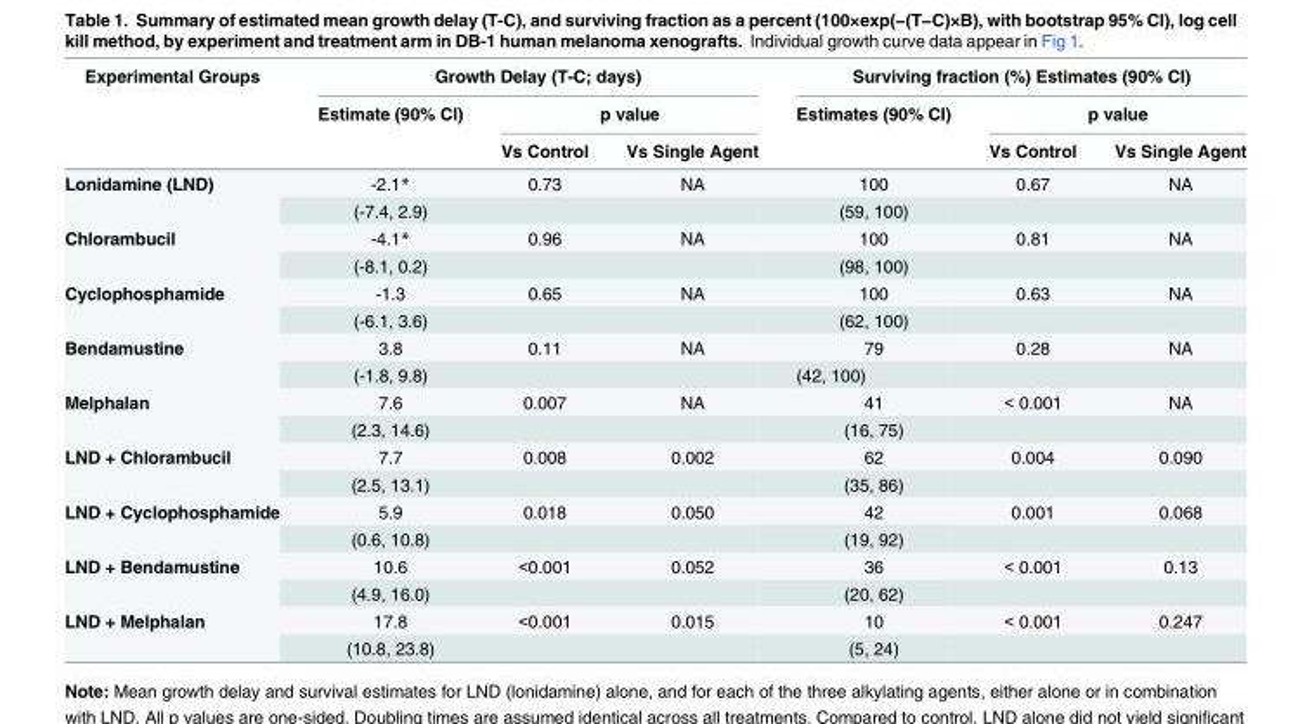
<table><thead><tr><td rowspan="3">Experimental Groups</td><td colspan="3">Growth Delay (T-C; days)</td><td colspan="3">Surviving fraction (%) Estimates (90% CI)</td></tr><tr><td rowspan="2">Estimate (90% CI)</td><td colspan="2">p value</td><td rowspan="2">Estimates (90% CI)</td><td colspan="2">p value</td></tr><tr><td>Vs Control</td><td>Vs Single Agent</td><td>Vs Control</td><td>Vs Single Agent</td></tr></thead><tbody><tr><td rowspan="2">Lonidamine (LND)</td><td>-2.1*</td><td>0.73</td><td>NA</td><td>100</td><td>0.67</td><td>NA</td></tr><tr><td>(-7.4, 2.9)</td><td></td><td></td><td>(59, 100)</td><td></td><td></td></tr><tr><td rowspan="2">Chlorambucil</td><td>-4.1*</td><td>0.96</td><td>NA</td><td>100</td><td>0.81</td><td>NA</td></tr><tr><td>(-8.1, 0.2)</td><td></td><td></td><td>(98, 100)</td><td></td><td></td></tr><tr><td rowspan="2">Cyclophosphamide</td><td>-1.3</td><td>0.65</td><td>NA</td><td>100</td><td>0.63</td><td>NA</td></tr><tr><td>(-6.1, 3.6)</td><td></td><td></td><td>(62, 100)</td><td></td><td></td></tr><tr><td rowspan="2">Bendamustine</td><td>3.8</td><td>0.11</td><td>NA</td><td>79</td><td>0.28</td><td>NA</td></tr><tr><td>(-1.8, 9.8)</td><td></td><td></td><td>(42, 100)</td><td></td><td></td></tr><tr><td rowspan="2">Melphalan</td><td>7.6</td><td>0.007</td><td>NA</td><td>41</td><td>&lt; 0.001</td><td>NA</td></tr><tr><td>(2.3, 14.6)</td><td></td><td></td><td>(16, 75)</td><td></td><td></td></tr><tr><td rowspan="2">LND + Chlorambucil</td><td>7.7</td><td>0.008</td><td>0.002</td><td>62</td><td>0.004</td><td>0.090</td></tr><tr><td>(2.5, 13.1)</td><td></td><td></td><td>(35, 86)</td><td></td><td></td></tr><tr><td rowspan="2">LND + Cyclophosphamide</td><td>5.9</td><td>0.018</td><td>0.050</td><td>42</td><td>0.001</td><td>0.068</td></tr><tr><td>(0.6, 10.8)</td><td></td><td></td><td>(19, 92)</td><td></td><td></td></tr><tr><td rowspan="2">LND + Bendamustine</td><td>10.6</td><td>&lt;0.001</td><td>0.052</td><td>36</td><td>&lt; 0.001</td><td>0.13</td></tr><tr><td>(4.9, 16.0)</td><td></td><td></td><td>(20, 62)</td><td></td><td></td></tr><tr><td rowspan="2">LND + Melphalan</td><td>17.8</td><td>&lt;0.001</td><td>0.015</td><td>10</td><td>&lt; 0.001</td><td>0.247</td></tr><tr><td>(10.8, 23.8)</td><td></td><td></td><td>(5, 24)</td><td></td><td></td></tr></tbody></table>